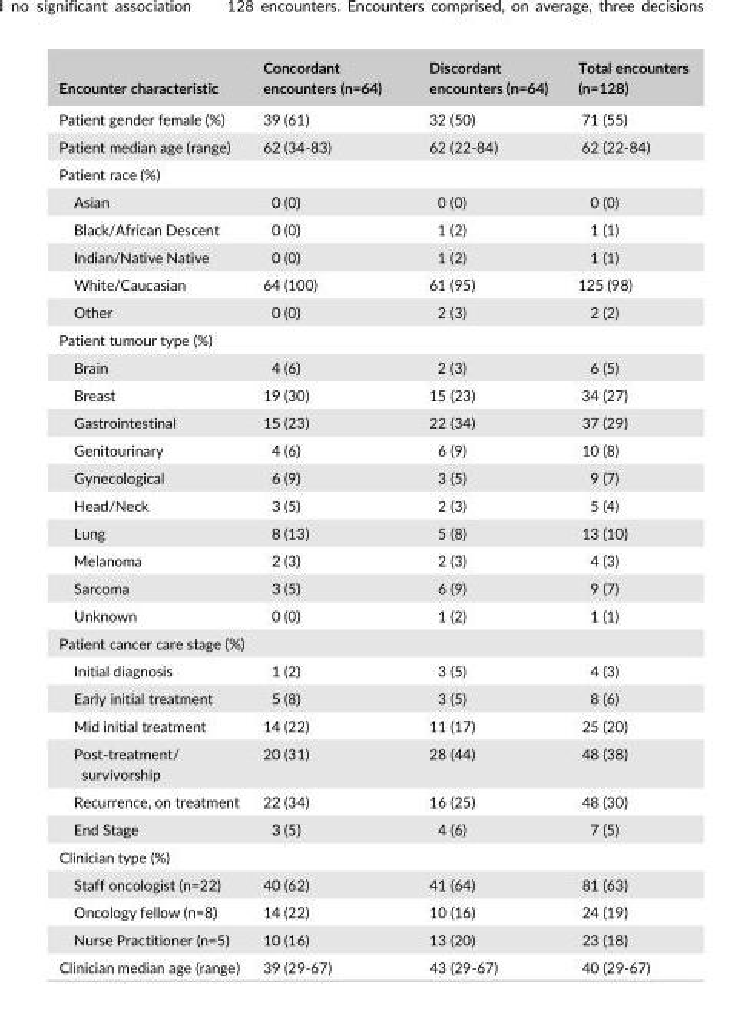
<table><thead><tr><td>Encounter characteristic</td><td>Concordant encounters (n=64)</td><td>Discordant encounters (n=64)</td><td>Total encounters (n=128)</td></tr></thead><tbody><tr><td>Patient gender female (%)</td><td>39 (61)</td><td>32 (50)</td><td>71 (55)</td></tr><tr><td>Patient median age (range)</td><td>62 (34- 83)</td><td>62 (22- 84)</td><td>62 (22- 84)</td></tr><tr><td colspan="4">Patient race (%)</td></tr><tr><td>Asian</td><td>0 (0)</td><td>0 (0)</td><td>0 (0)</td></tr><tr><td>Black/African Descent</td><td>0 (0)</td><td>1 (2)</td><td>1 (1)</td></tr><tr><td>Indian/Native Native</td><td>0 (0)</td><td>1 (2)</td><td>1 (1)</td></tr><tr><td>White/Caucasian</td><td>64 (100)</td><td>61 (95)</td><td>125 (98)</td></tr><tr><td>Other</td><td>0 (0)</td><td>2 (3)</td><td>2 (2)</td></tr><tr><td colspan="4">Patient tumour type (%)</td></tr><tr><td>Brain</td><td>4 (6)</td><td>2 (3)</td><td>6 (5)</td></tr><tr><td>Breast</td><td>19 (30)</td><td>15 (23)</td><td>34 (27)</td></tr><tr><td>Gastrointestinal</td><td>15 (23)</td><td>22 (34)</td><td>37 (29)</td></tr><tr><td>Genitourinary</td><td>4 (6)</td><td>6 (9)</td><td>10 (8)</td></tr><tr><td>Gynecological</td><td>6 (9)</td><td>3 (5)</td><td>9 (7)</td></tr><tr><td>Head/Neck</td><td>3 (5)</td><td>2 (3)</td><td>5 (4)</td></tr><tr><td>Lung</td><td>8 (13)</td><td>5 (8)</td><td>13 (10)</td></tr><tr><td>Melanoma</td><td>2 (3)</td><td>2 (3)</td><td>4 (3)</td></tr><tr><td>Sarcoma</td><td>3 (5)</td><td>6 (9)</td><td>9 (7)</td></tr><tr><td>Unknown</td><td>0 (0)</td><td>1 (2)</td><td>1 (1)</td></tr><tr><td colspan="4">Patient cancer care stage (%)</td></tr><tr><td>Initial diagnosis</td><td>1 (2)</td><td>3 (5)</td><td>4 (3)</td></tr><tr><td>Early initial treatment</td><td>5 (8)</td><td>3 (5)</td><td>8 (6)</td></tr><tr><td>Mid initial treatment</td><td>14 (22)</td><td>11 (17)</td><td>25 (20)</td></tr><tr><td>Post- treatment/ survivorship</td><td>20 (31)</td><td>28 (44)</td><td>48 (38)</td></tr><tr><td>Recurrence, on treatment</td><td>22 (34)</td><td>16 (25)</td><td>48 (30)</td></tr><tr><td>End Stage</td><td>3 (5)</td><td>4 (6)</td><td>7 (5)</td></tr><tr><td colspan="4">Clinician type (%)</td></tr><tr><td>Staff oncologist (n=22)</td><td>40 (62)</td><td>41 (64)</td><td>81 (63)</td></tr><tr><td>Oncology fellow (n=8)</td><td>14 (22)</td><td>10 (16)</td><td>24 (19)</td></tr><tr><td>Nurse Practitioner (n=5)</td><td>10 (16)</td><td>13 (20)</td><td>23 (18)</td></tr><tr><td>Clinician median age (range)</td><td>39 (29- 67)</td><td>43 (29- 67)</td><td>40 (29- 67)</td></tr></tbody></table>